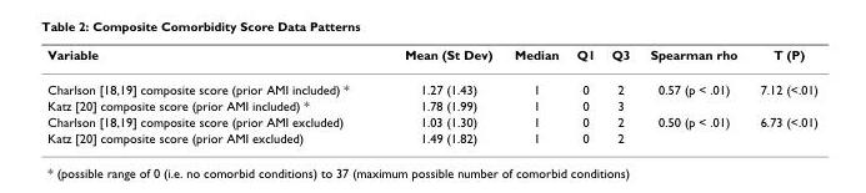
<table><thead><tr><td>Variable</td><td>Mean (St Dev)</td><td>Median</td><td>Q1</td><td>Q3</td><td>Spearman rho</td><td>T (P)</td></tr></thead><tbody><tr><td>Charlson [18,19] composite score (prior AMI included) *</td><td>1.27 (1.43)</td><td>1</td><td>0</td><td>2</td><td>0.57 (p &lt; .01)</td><td>7.12 (&lt;.01)</td></tr><tr><td>Katz [20] composite score (prior AMI included) *</td><td>1.78 (1.99)</td><td>1</td><td>0</td><td>3</td><td></td><td></td></tr><tr><td>Charlson [18,19] composite score (prior AMI excluded)</td><td>1.03 (1.30)</td><td>1</td><td>0</td><td>2</td><td>0.50 (p &lt; .01)</td><td>6.73 (&lt;.01)</td></tr><tr><td>Katz [20] composite score (prior AMI excluded)</td><td>1.49 (1.82)</td><td>1</td><td>0</td><td>2</td><td></td><td></td></tr></tbody></table>